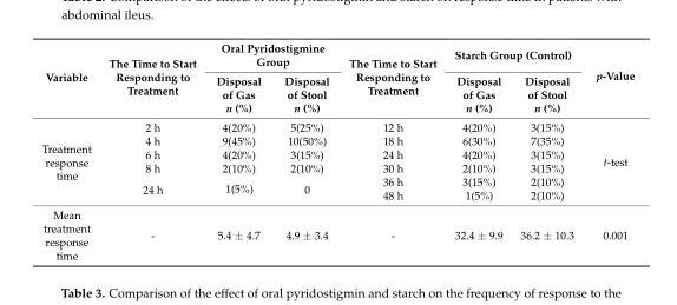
<table><thead><tr><td rowspan="2">Variable</td><td rowspan="2">The Time to Start Responding to Treatment</td><td colspan="2">Oral Pyridostigmine Group</td><td rowspan="2">The Time to Start Responding to Treatment</td><td colspan="2">Starch Group (Control)</td><td rowspan="2">p-Value</td></tr><tr><td>Disposal of Gas n (%)</td><td>Disposal of Stool n (%)</td><td>Disposal of Gas n (%)</td><td>Disposal of Stool n (%)</td></tr></thead><tbody><tr><td rowspan="6">Treatment response time</td><td>2 h</td><td>4(20%)</td><td>5(25%)</td><td>12 h</td><td>4(20%)</td><td>3(15%)</td><td rowspan="6">t-test</td></tr><tr><td>4 h</td><td>9(45%)</td><td>10(50%)</td><td>18 h</td><td>6(30%)</td><td>7(35%)</td></tr><tr><td>6 h</td><td>4(20%)</td><td>3(15%)</td><td>24 h</td><td>4(20%)</td><td>3(15%)</td></tr><tr><td>8 h</td><td>2(10%)</td><td>2(10%)</td><td>30 h</td><td>2(10%)</td><td>3(15%)</td></tr><tr><td rowspan="2">24 h</td><td rowspan="2">1(5%)</td><td rowspan="2">0</td><td>36 h</td><td>3(15%)</td><td>2(10%)</td></tr><tr><td>48 h</td><td>1(5%)</td><td>2(10%)</td></tr><tr><td>Mean treatment response time</td><td>-</td><td>5.4 ± 4.7</td><td>4.9 ± 3.4</td><td>-</td><td>32.4 ± 9.9</td><td>36.2 ± 10.3</td><td>0.001</td></tr></tbody></table>